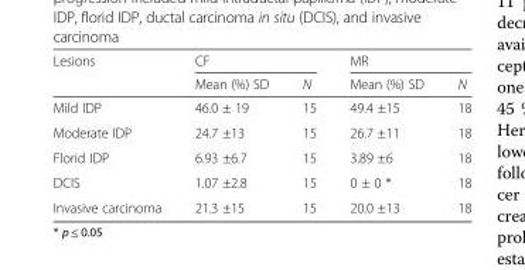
<table><thead><tr><td rowspan="2">Lesions</td><td colspan="2">CF</td><td colspan="2">MR</td></tr><tr><td>Mean (%) SD</td><td>N</td><td>Mean (%) SD</td><td>N</td></tr></thead><tbody><tr><td>Mild IDP</td><td>46.0 ± 19</td><td>15</td><td>49.4 ±15</td><td>18</td></tr><tr><td>Moderate IDP</td><td>24.7 ±13</td><td>15</td><td>26.7 ±11</td><td>18</td></tr><tr><td>Florid IDP</td><td>6.93 ±6.7</td><td>15</td><td>3.89 ±6</td><td>18</td></tr><tr><td>DCIS</td><td>1.07 ±2.8</td><td>15</td><td>0 ± 0 *</td><td>18</td></tr><tr><td>Invasive carcinoma</td><td>21.3 ±15</td><td>15</td><td>20.0 ±13</td><td>18</td></tr></tbody></table>